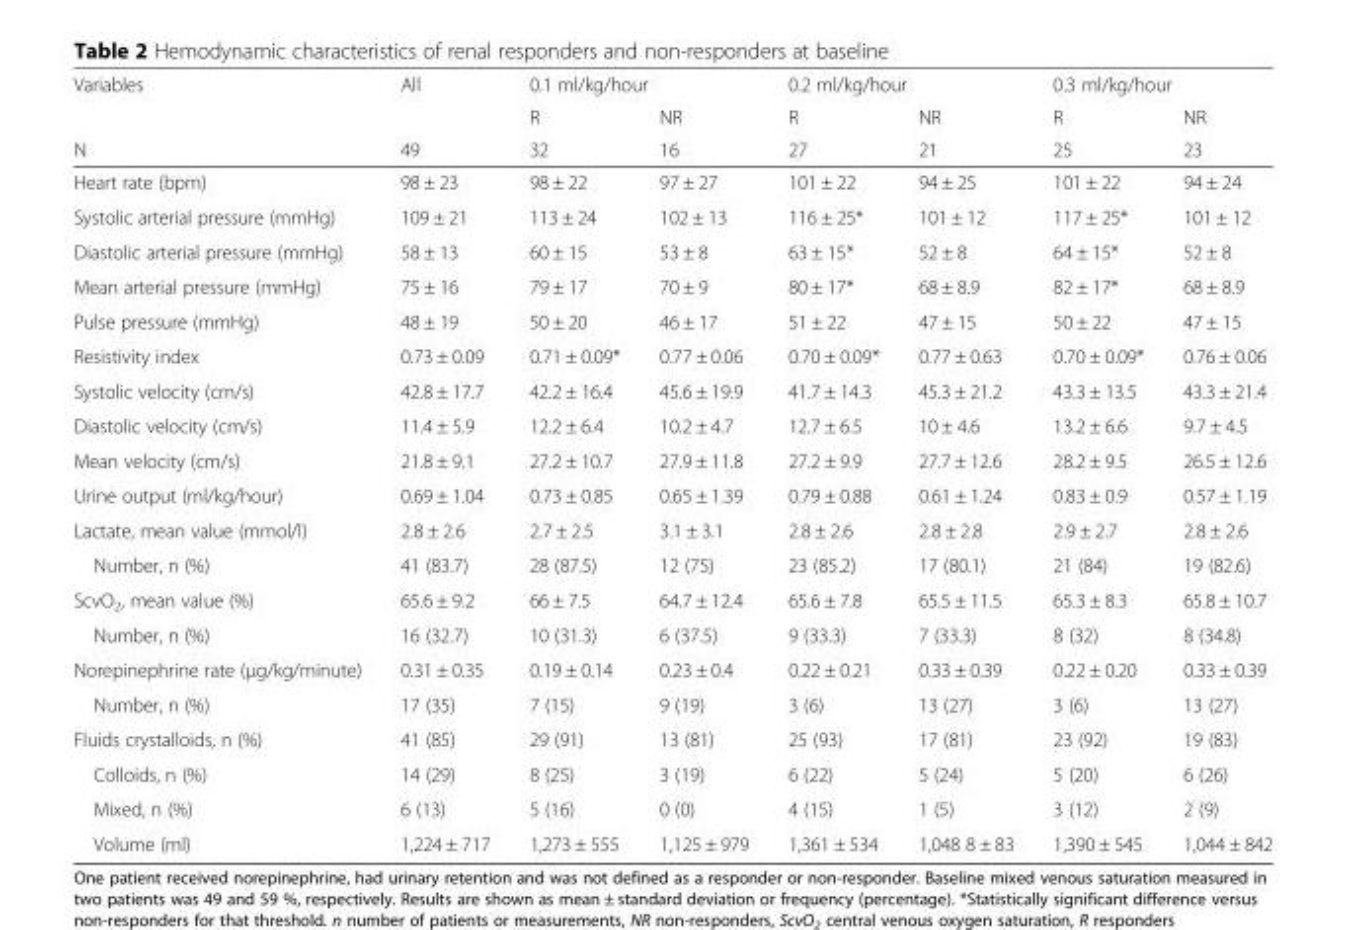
<table><thead><tr><td rowspan="3">Variables N</td><td rowspan="3">All 49</td><td colspan="2">0.1 ml/kg/hour</td><td colspan="2">0.2 ml/kg/hour</td><td colspan="2">0.3 ml/kg/hour</td></tr><tr><td rowspan="2">R 32</td><td rowspan="2">NR 16</td><td rowspan="2">R 27</td><td rowspan="2">NR 21</td><td rowspan="2">R 25</td><td rowspan="2">NR 23</td></tr><tr></tr></thead><tbody><tr><td>Heart rate (bpm)</td><td>98 ± 23</td><td>98 ± 22</td><td>97 ± 27</td><td>101 ± 22</td><td>94 ± 25</td><td>101 ± 22</td><td>94 ± 24</td></tr><tr><td>Systolic arterial pressure (mmHg)</td><td>109 ± 21</td><td>113 ± 24</td><td>102 ± 13</td><td>116 ± 25*</td><td>101 ± 12</td><td>117 ± 25*</td><td>101 ± 12</td></tr><tr><td>Diastolic arterial pressure (mmHg)</td><td>58 ± 13</td><td>60 ± 15</td><td>53 ± 8</td><td>63 ± 15*</td><td>52 ± 8</td><td>64 ± 15*</td><td>52 ± 8</td></tr><tr><td>Mean arterial pressure (mmHg)</td><td>75 ± 16</td><td>79 ± 17</td><td>70 ± 9</td><td>80 ± 17*</td><td>68 ± 8.9</td><td>82 ± 17*</td><td>68 ± 8.9</td></tr><tr><td>Pulse pressure (mmHg)</td><td>48 ± 19</td><td>50 ± 20</td><td>46 ± 17</td><td>51 ± 22</td><td>47 ± 15</td><td>50 ± 22</td><td>47 ± 15</td></tr><tr><td>Resistivity index</td><td>0.73 ± 0.09</td><td>0.71 ± 0.09*</td><td>0.77 ± 0.06</td><td>0.70 ± 0.09*</td><td>0.77 ± 0.63</td><td>0.70 ± 0.09*</td><td>0.76 ± 0.06</td></tr><tr><td>Systolic velocity (cm/s)</td><td>42.8 ± 17.7</td><td>42.2 ± 16.4</td><td>45.6 ± 19.9</td><td>41.7 ± 14.3</td><td>45.3 ± 21.2</td><td>43.3 ± 13.5</td><td>43.3 ± 21.4</td></tr><tr><td>Diastolic velocity (cm/s)</td><td>11.4 ± 5.9</td><td>12.2 ± 6.4</td><td>10.2 ± 4.7</td><td>12.7 ± 6.5</td><td>10 ± 4.6</td><td>13.2 ± 6.6</td><td>9.7 ± 4.5</td></tr><tr><td>Mean velocity (cm/s)</td><td>21.8 ± 9.1</td><td>27.2 ± 10.7</td><td>27.9 ± 11.8</td><td>27.2 ± 9.9</td><td>27.7 ± 12.6</td><td>28.2 ± 9.5</td><td>26.5 ± 12.6</td></tr><tr><td>Urine output (ml/kg/hour)</td><td>0.69 ± 1.04</td><td>0.73 ± 0.85</td><td>0.65 ± 1.39</td><td>0.79 ± 0.88</td><td>0.61 ± 1.24</td><td>0.83 ± 0.9</td><td>0.57 ± 1.19</td></tr><tr><td>Lactate, mean value (mmol/l)</td><td>2.8 ± 2.6</td><td>2.7 ± 2.5</td><td>3.1 ± 3.1</td><td>2.8 ± 2.6</td><td>2.8 ± 2.8</td><td>2.9 ± 2.7</td><td>2.8 ± 2.6</td></tr><tr><td>Number, n (%)</td><td>41 (83.7)</td><td>28 (87.5)</td><td>12 (75)</td><td>23 (85.2)</td><td>17 (80.1)</td><td>21 (84)</td><td>19 (82.6)</td></tr><tr><td>ScvO<sub>2</sub>, mean value (%)</td><td>65.6 ± 9.2</td><td>66 ± 7.5</td><td>64.7 ± 12.4</td><td>65.6 ± 7.8</td><td>65.5 ± 11.5</td><td>65.3 ± 8.3</td><td>65.8 ± 10.7</td></tr><tr><td>Number, n (%)</td><td>16 (32.7)</td><td>10 (31.3)</td><td>6 (37.5)</td><td>9 (33.3)</td><td>7 (33.3)</td><td>8 (32)</td><td>8 (34.8)</td></tr><tr><td>Norepinephrine rate (μg/kg/minute)</td><td>0.31 ± 0.35</td><td>0.19 ± 0.14</td><td>0.23 ± 0.4</td><td>0.22 ± 0.21</td><td>0.33 ± 0.39</td><td>0.22 ± 0.20</td><td>0.33 ± 0.39</td></tr><tr><td>Number, n (%)</td><td>17 (35)</td><td>7 (15)</td><td>9 (19)</td><td>3 (6)</td><td>13 (27)</td><td>3 (6)</td><td>13 (27)</td></tr><tr><td>Fluids crystalloids, n (%)</td><td>41 (85)</td><td>29 (91)</td><td>13 (81)</td><td>25 (93)</td><td>17 (81)</td><td>23 (92)</td><td>19 (83)</td></tr><tr><td>Colloids, n (%)</td><td>14 (29)</td><td>8 (25)</td><td>3 (19)</td><td>6 (22)</td><td>5 (24)</td><td>5 (20)</td><td>6 (26)</td></tr><tr><td>Mixed, n (%)</td><td>6 (13)</td><td>5 (16)</td><td>0 (0)</td><td>4 (15)</td><td>1 (5)</td><td>3 (12)</td><td>2 (9)</td></tr><tr><td>Volume (ml)</td><td>1,224 ± 717</td><td>1,273 ± 555</td><td>1,125 ± 979</td><td>1,361 ± 534</td><td>1,048 8 ± 83</td><td>1,390 ± 545</td><td>1,044 ± 842</td></tr></tbody></table>